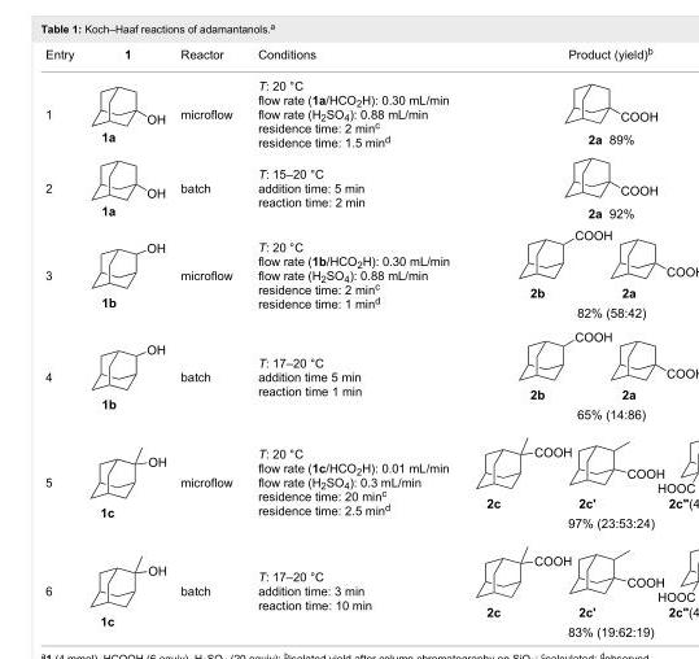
<table><tbody><tr><td>Entry</td><td>1</td><td>Reactor</td><td>Conditions</td><td>Product (yield)<sup>b</sup></td></tr><tr><td>1</td><td></td><td>microflow</td><td>T: 20 °C flow rate (1a/HCO<sub>2</sub>H): 0.30 mL/min flow rate (H<sub>2</sub>SO<sub>4</sub>): 0.88 mL/min residence time: 2 min<sup>c</sup> residence time: 1.5 min<sup>d</sup></td><td></td></tr><tr><td>2</td><td></td><td>batch</td><td>T: 15–20 °C addition time: 5 min reaction time: 2 min</td><td></td></tr><tr><td>3</td><td></td><td>microflow</td><td>T: 20 °C flow rate (1b/HCO<sub>2</sub>H): 0.30 mL/min flow rate (H<sub>2</sub>SO<sub>4</sub>): 0.88 mL/min residence time: 2 min<sup>c</sup> residence time: 1 min<sup>d</sup></td><td></td></tr><tr><td>4</td><td></td><td>batch</td><td>T: 17–20 °C addition time 5 min reaction time 1 min</td><td></td></tr><tr><td>5</td><td></td><td>microflow</td><td>T: 20 °C flow rate (1c/HCO<sub>2</sub>H): 0.01 mL/min flow rate (H<sub>2</sub>SO<sub>4</sub>): 0.3 mL/min residence time: 20 min<sup>c</sup> residence time: 2.5 min<sup>d</sup></td><td></td></tr><tr><td>6</td><td></td><td>batch</td><td>T: 17–20 °C addition time: 3 min reaction time: 10 min</td><td></td></tr></tbody></table>